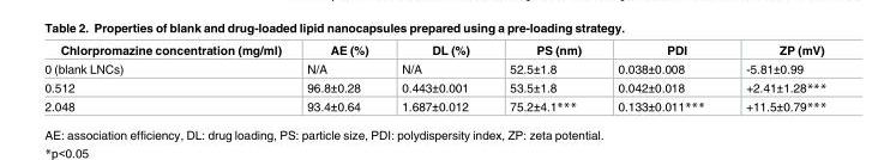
<table><thead><tr><td>Chlorpromazine concentration (mg/ml)</td><td>AE (%)</td><td>DL (%)</td><td>PS (nm)</td><td>PDI</td><td>ZP (mV)</td></tr></thead><tbody><tr><td>0 (blank LNCs)</td><td>N/A</td><td>N/A</td><td>52.5±1.8</td><td>0.038±0.008</td><td>-5.81±0.99</td></tr><tr><td>0.512</td><td>96.8±0.28</td><td>0.443±0.001</td><td>53.5±1.8</td><td>0.042±0.018</td><td>+2.41±1.28***</td></tr><tr><td>2.048</td><td>93.4±0.64</td><td>1.687±0.012</td><td>75.2±4.1***</td><td>0.133±0.011***</td><td>+11.5±0.79***</td></tr></tbody></table>